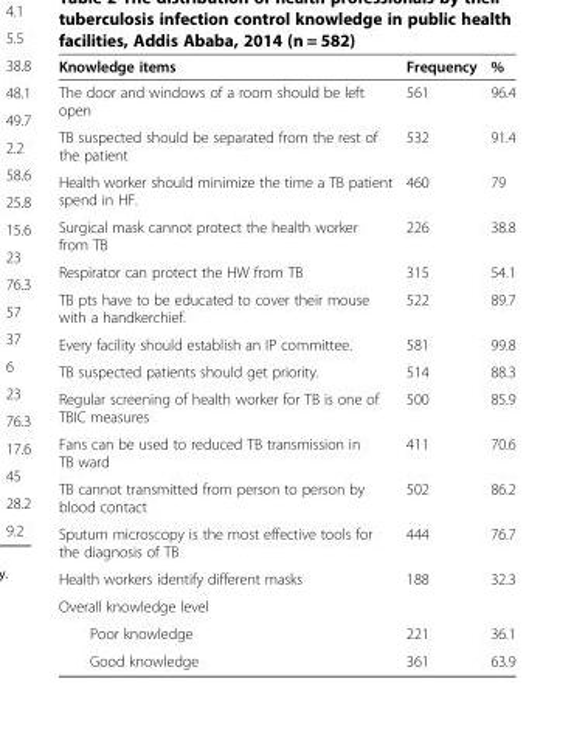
<table><thead><tr><td>Knowledge items</td><td>Frequency</td><td>%</td></tr></thead><tbody><tr><td>The door and windows of a room should be left open</td><td>561</td><td>96.4</td></tr><tr><td>TB suspected should be separated from the rest of the patient</td><td>532</td><td>91.4</td></tr><tr><td>Health worker should minimize the time a TB patient spend in HF.</td><td>460</td><td>79</td></tr><tr><td>Surgical mask cannot protect the health worker from TB</td><td>226</td><td>38.8</td></tr><tr><td>Respirator can protect the HW from TB</td><td>315</td><td>54.1</td></tr><tr><td>TB pts have to be educated to cover their mouse with a handkerchief.</td><td>522</td><td>89.7</td></tr><tr><td>Every facility should establish an IP committee.</td><td>581</td><td>99.8</td></tr><tr><td>TB suspected patients should get priority.</td><td>514</td><td>88.3</td></tr><tr><td>Regular screening of health worker for TB is one of TBIC measures</td><td>500</td><td>85.9</td></tr><tr><td>Fans can be used to reduced TB transmission in TB ward</td><td>411</td><td>70.6</td></tr><tr><td>TB cannot transmitted from person to person by blood contact</td><td>502</td><td>86.2</td></tr><tr><td>Sputum microscopy is the most effective tools for the diagnosis of TB</td><td>444</td><td>76.7</td></tr><tr><td>Health workers identify different masks</td><td>188</td><td>32.3</td></tr><tr><td colspan="3">Overall knowledge level</td></tr><tr><td>Poor knowledge</td><td>221</td><td>36.1</td></tr><tr><td>Good knowledge</td><td>361</td><td>63.9</td></tr></tbody></table>